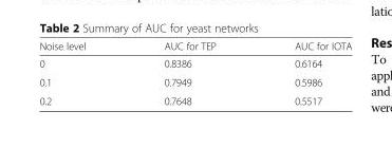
<table><thead><tr><td>Noise level</td><td>AUC for TEP</td><td>AUC for IOTA</td></tr></thead><tbody><tr><td>0</td><td>0.8386</td><td>0.6164</td></tr><tr><td>0.1</td><td>0.7949</td><td>0.5986</td></tr><tr><td>0.2</td><td>0.7648</td><td>0.5517</td></tr></tbody></table>